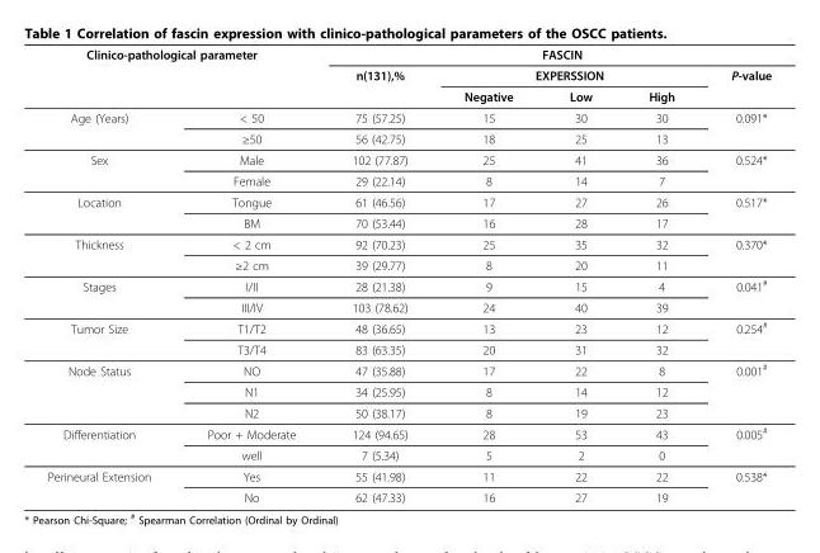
<table><thead><tr><td colspan="2">Clinico-pathological parameter</td><td colspan="5">FASCIN</td></tr><tr><td rowspan="2"></td><td rowspan="2"></td><td rowspan="2">n(131),%</td><td colspan="3">EXPERSSION</td><td rowspan="2">P-value</td></tr><tr><td>Negative</td><td>Low</td><td>High</td></tr></thead><tbody><tr><td rowspan="2">Age (Years)</td><td>&lt; 50</td><td>75 (57.25)</td><td>15</td><td>30</td><td>30</td><td>0.091*</td></tr><tr><td>≥50</td><td>56 (42.75)</td><td>18</td><td>25</td><td>13</td><td></td></tr><tr><td rowspan="2">Sex</td><td>Male</td><td>102 (77.87)</td><td>25</td><td>41</td><td>36</td><td>0.524*</td></tr><tr><td>Female</td><td>29 (22.14)</td><td>8</td><td>14</td><td>7</td><td></td></tr><tr><td rowspan="2">Location</td><td>Tongue</td><td>61 (46.56)</td><td>17</td><td>27</td><td>26</td><td>0.517*</td></tr><tr><td>BM</td><td>70 (53.44)</td><td>16</td><td>28</td><td>17</td><td></td></tr><tr><td rowspan="2">Thickness</td><td>&lt; 2 cm</td><td>92 (70.23)</td><td>25</td><td>35</td><td>32</td><td>0.370*</td></tr><tr><td>≥2 cm</td><td>39 (29.77)</td><td>8</td><td>20</td><td>11</td><td></td></tr><tr><td rowspan="2">Stages</td><td>I/II</td><td>28 (21.38)</td><td>9</td><td>15</td><td>4</td><td>0.041<sup>#</sup></td></tr><tr><td>III/IV</td><td>103 (78.62)</td><td>24</td><td>40</td><td>39</td><td></td></tr><tr><td rowspan="2">Tumor Size</td><td>T1/T2</td><td>48 (36.65)</td><td>13</td><td>23</td><td>12</td><td>0.254<sup>#</sup></td></tr><tr><td>T3/T4</td><td>83 (63.35)</td><td>20</td><td>31</td><td>32</td><td></td></tr><tr><td rowspan="3">Node Status</td><td>NO</td><td>47 (35.88)</td><td>17</td><td>22</td><td>8</td><td>0.001<sup>#</sup></td></tr><tr><td>N1</td><td>34 (25.95)</td><td>8</td><td>14</td><td>12</td><td></td></tr><tr><td>N2</td><td>50 (38.17)</td><td>8</td><td>19</td><td>23</td><td></td></tr><tr><td rowspan="2">Differentiation</td><td>Poor + Moderate</td><td>124 (94.65)</td><td>28</td><td>53</td><td>43</td><td>0.005<sup>#</sup></td></tr><tr><td>well</td><td>7 (5.34)</td><td>5</td><td>2</td><td>0</td><td></td></tr><tr><td rowspan="2">Perineural Extension</td><td>Yes</td><td>55 (41.98)</td><td>11</td><td>22</td><td>22</td><td>0.538*</td></tr><tr><td>No</td><td>62 (47.33)</td><td>16</td><td>27</td><td>19</td><td></td></tr></tbody></table>